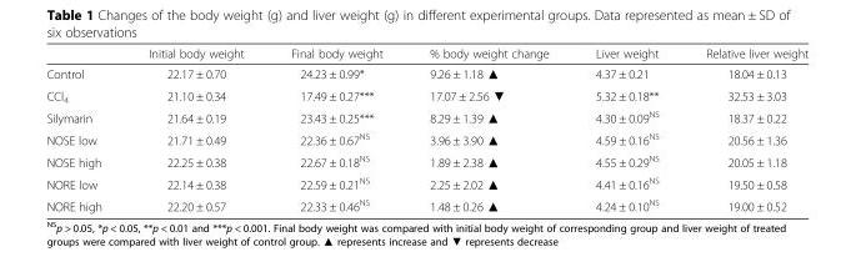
<table><thead><tr><td></td><td>Initial body weight</td><td>Final body weight</td><td>% body weight change</td><td>Liver weight</td><td>Relative liver weight</td></tr></thead><tbody><tr><td>Control</td><td>22.17 ± 0.70</td><td>24.23 ± 0.99*</td><td>9.26 ± 1.18 ▲</td><td>4.37 ± 0.21</td><td>18.04 ± 0.13</td></tr><tr><td>CCl<sub>4</sub></td><td>21.10 ± 0.34</td><td>17.49 ± 0.27***</td><td>17.07 ± 2.56 ▼</td><td>5.32 ± 0.18**</td><td>32.53 ± 3.03</td></tr><tr><td>Silymarin</td><td>21.64 ± 0.19</td><td>23.43 ± 0.25***</td><td>8.29 ± 1.39 ▲</td><td>4.30 ± 0.09<sup>NS</sup></td><td>18.37 ± 0.22</td></tr><tr><td>NOSE low</td><td>21.71 ± 0.49</td><td>22.36 ± 0.67<sup>NS</sup></td><td>3.96 ± 3.90 ▲</td><td>4.59 ± 0.16<sup>NS</sup></td><td>20.56 ± 1.36</td></tr><tr><td>NOSE high</td><td>22.25 ± 0.38</td><td>22.67 ± 0.18<sup>NS</sup></td><td>1.89 ± 2.38 ▲</td><td>4.55 ± 0.29<sup>NS</sup></td><td>20.05 ± 1.18</td></tr><tr><td>NORE low</td><td>22.14 ± 0.38</td><td>22.59 ± 0.21<sup>NS</sup></td><td>2.25 ± 2.02 ▲</td><td>4.41 ± 0.16<sup>NS</sup></td><td>19.50 ± 0.58</td></tr><tr><td>NORE high</td><td>22.20 ± 0.57</td><td>22.33 ± 0.46<sup>NS</sup></td><td>1.48 ± 0.26 ▲</td><td>4.24 ± 0.10<sup>NS</sup></td><td>19.00 ± 0.52</td></tr></tbody></table>